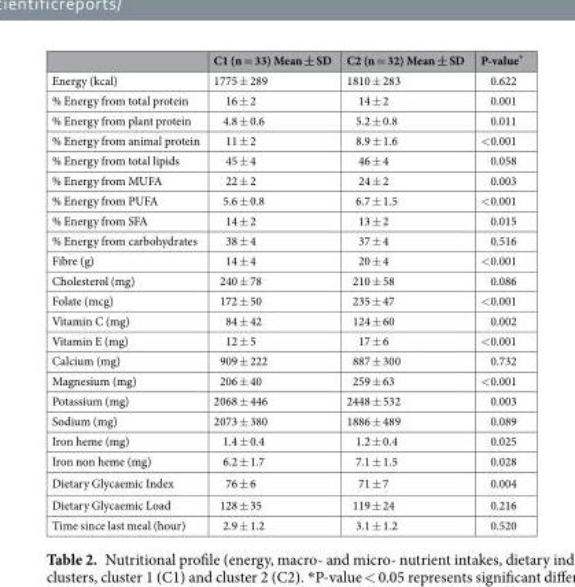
<table><thead><tr><td></td><td>C1 (n = 33) Mean ± SD</td><td>C2 (n = 32) Mean ± SD</td><td>P-value*</td></tr></thead><tbody><tr><td>Energy (kcal)</td><td>1775 ± 289</td><td>1810 ± 283</td><td>0.622</td></tr><tr><td>% Energy from total protein</td><td>16 ± 2</td><td>14 ± 2</td><td>0.001</td></tr><tr><td>% Energy from plant protein</td><td>4.8 ± 0.6</td><td>5.2 ± 0.8</td><td>0.011</td></tr><tr><td>% Energy from animal protein</td><td>11 ± 2</td><td>8.9 ± 1.6</td><td>&lt;0.001</td></tr><tr><td>% Energy from total lipids</td><td>45 ± 4</td><td>46 ± 4</td><td>0.058</td></tr><tr><td>% Energy from MUFA</td><td>22 ± 2</td><td>24 ± 2</td><td>0.003</td></tr><tr><td>% Energy from PUFA</td><td>5.6 ± 0.8</td><td>6.7 ± 1.5</td><td>&lt;0.001</td></tr><tr><td>% Energy from SFA</td><td>14 ± 2</td><td>13 ± 2</td><td>0.015</td></tr><tr><td>% Energy from carbohydrates</td><td>38 ± 4</td><td>37 ± 4</td><td>0.516</td></tr><tr><td>Fibre (g)</td><td>14 ± 4</td><td>20 ± 4</td><td>&lt;0.001</td></tr><tr><td>Cholesterol (mg)</td><td>240 ± 78</td><td>210 ± 58</td><td>0.086</td></tr><tr><td>Folate (mcg)</td><td>172 ± 50</td><td>235 ± 47</td><td>&lt;0.001</td></tr><tr><td>Vitamin C (mg)</td><td>84 ± 42</td><td>124 ± 60</td><td>0.002</td></tr><tr><td>Vitamin E (mg)</td><td>12 ± 5</td><td>17 ± 6</td><td>&lt;0.001</td></tr><tr><td>Calcium (mg)</td><td>909 ± 222</td><td>887 ± 300</td><td>0.732</td></tr><tr><td>Magnesium (mg)</td><td>206 ± 40</td><td>259 ± 63</td><td>&lt;0.001</td></tr><tr><td>Potassium (mg)</td><td>2068 ± 446</td><td>2448 ± 532</td><td>0.003</td></tr><tr><td>Sodium (mg)</td><td>2073 ± 380</td><td>1886 ± 489</td><td>0.089</td></tr><tr><td>Iron heme (mg)</td><td>1.4 ± 0.4</td><td>1.2 ± 0.4</td><td>0.025</td></tr><tr><td>Iron non heme (mg)</td><td>6.2 ± 1.7</td><td>7.1 ± 1.5</td><td>0.028</td></tr><tr><td>Dietary Glycaemic Index</td><td>76 ± 6</td><td>71 ± 7</td><td>0.004</td></tr><tr><td>Dietary Glycaemic Load</td><td>128 ± 35</td><td>119 ± 24</td><td>0.216</td></tr><tr><td>Time since last meal (hour)</td><td>2.9 ± 1.2</td><td>3.1 ± 1.2</td><td>0.520</td></tr></tbody></table>